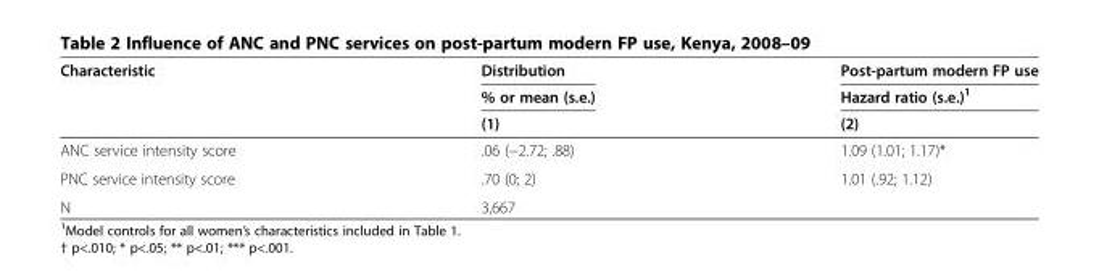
<table><thead><tr><td rowspan="3">Characteristic</td><td rowspan="3">Distribution % or mean (s.e.) (1)</td><td rowspan="3">Post-partum modern FP use Hazard ratio (s.e.)<sup>1</sup> (2)</td></tr><tr></tr><tr></tr></thead><tbody><tr><td>ANC service intensity score</td><td>.06 (−2.72; .88)</td><td>1.09 (1.01; 1.17)*</td></tr><tr><td>PNC service intensity score</td><td>.70 (0; 2)</td><td>1.01 (.92; 1.12)</td></tr><tr><td>N</td><td>3,667</td><td></td></tr></tbody></table>